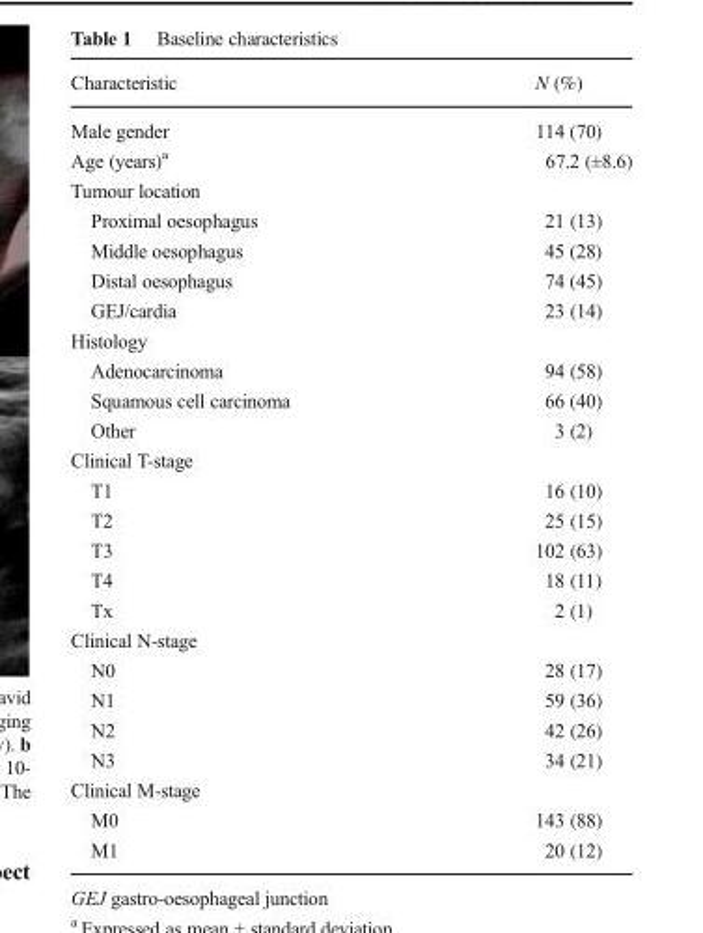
<table><thead><tr><td>Characteristic</td><td>N (%)</td></tr></thead><tbody><tr><td>Male gender</td><td>114 (70)</td></tr><tr><td>Age (years)<sup>a</sup></td><td>67.2 (±8.6)</td></tr><tr><td colspan="2">Tumour location</td></tr><tr><td>Proximal oesophagus</td><td>21 (13)</td></tr><tr><td>Middle oesophagus</td><td>45 (28)</td></tr><tr><td>Distal oesophagus</td><td>74 (45)</td></tr><tr><td>GEJ/cardia</td><td>23 (14)</td></tr><tr><td colspan="2">Histology</td></tr><tr><td>Adenocarcinoma</td><td>94 (58)</td></tr><tr><td>Squamous cell carcinoma</td><td>66 (40)</td></tr><tr><td>Other</td><td>3 (2)</td></tr><tr><td colspan="2">Clinical T-stage</td></tr><tr><td>T1</td><td>16 (10)</td></tr><tr><td>T2</td><td>25 (15)</td></tr><tr><td>T3</td><td>102 (63)</td></tr><tr><td>T4</td><td>18 (11)</td></tr><tr><td>Tx</td><td>2 (1)</td></tr><tr><td colspan="2">Clinical N-stage</td></tr><tr><td>N0</td><td>28 (17)</td></tr><tr><td>N1</td><td>59 (36)</td></tr><tr><td>N2</td><td>42 (26)</td></tr><tr><td>N3</td><td>34 (21)</td></tr><tr><td colspan="2">Clinical M-stage</td></tr><tr><td>M0</td><td>143 (88)</td></tr><tr><td>M1</td><td>20 (12)</td></tr></tbody></table>